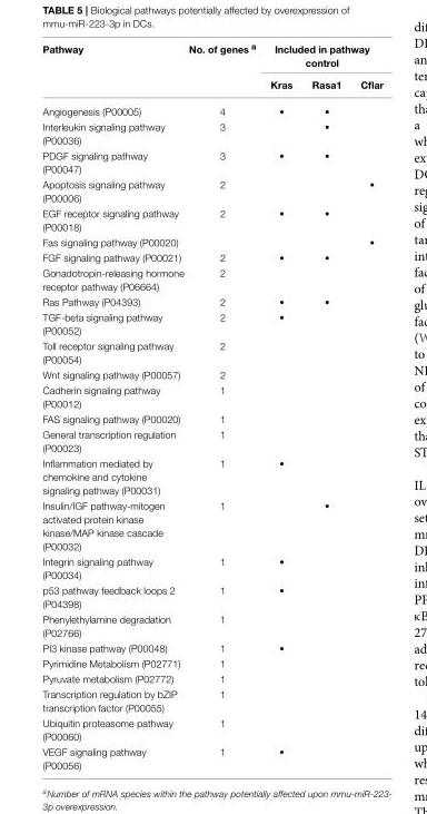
<table><thead><tr><td rowspan="2">Pathway</td><td rowspan="2">No. of genes <sup>a</sup></td><td colspan="3">Included in pathway control</td></tr><tr><td>Kras</td><td>Rasa1</td><td>Cflar</td></tr></thead><tbody><tr><td>Angiogenesis (P00005)</td><td>4</td><td>•</td><td>•</td><td></td></tr><tr><td>Interleukin signaling pathway (P00036)</td><td>3</td><td></td><td>•</td><td></td></tr><tr><td>PDGF signaling pathway (P00047)</td><td>3</td><td>•</td><td>•</td><td></td></tr><tr><td>Apoptosis signaling pathway (P00006)</td><td>2</td><td></td><td></td><td>•</td></tr><tr><td>EGF receptor signaling pathway (P00018)</td><td>2</td><td>•</td><td>•</td><td></td></tr><tr><td>Fas signaling pathway (P00020)</td><td></td><td></td><td></td><td>•</td></tr><tr><td>FGF signaling pathway (P00021)</td><td>2</td><td>•</td><td>•</td><td></td></tr><tr><td>Gonadotropin-releasing hormone receptor pathway (P06664)</td><td>2</td><td></td><td></td><td></td></tr><tr><td>Ras Pathway (P04393)</td><td>2</td><td>•</td><td>•</td><td></td></tr><tr><td>TGF-beta signaling pathway (P00052)</td><td>2</td><td>•</td><td></td><td></td></tr><tr><td>Toll receptor signaling pathway (P00054)</td><td>2</td><td></td><td></td><td></td></tr><tr><td>Wnt signaling pathway (P00057)</td><td>2</td><td></td><td></td><td></td></tr><tr><td>Cadherin signaling pathway (P00012)</td><td>1</td><td></td><td></td><td></td></tr><tr><td>FAS signaling pathway (P00020)</td><td>1</td><td></td><td></td><td></td></tr><tr><td>General transcription regulation (P00023)</td><td>1</td><td></td><td></td><td></td></tr><tr><td>Inflammation mediated by chemokine and cytokine signaling pathway (P00031)</td><td>1</td><td>•</td><td></td><td></td></tr><tr><td>Insulin/IGF pathway-mitogen activated protein kinase kinase/MAP kinase cascade (P00032)</td><td>1</td><td></td><td>•</td><td></td></tr><tr><td>Integrin signaling pathway (P00034)</td><td>1</td><td>•</td><td></td><td></td></tr><tr><td>p53 pathway feedback loops 2 (P04398)</td><td>1</td><td>•</td><td></td><td></td></tr><tr><td>Phenylethylamine degradation (P02766)</td><td>1</td><td></td><td></td><td></td></tr><tr><td>PI3 kinase pathway (P00048)</td><td>1</td><td>•</td><td></td><td></td></tr><tr><td>Pyrimidine Metabolism (P02771)</td><td>1</td><td></td><td></td><td></td></tr><tr><td>Pyruvate metabolism (P02772)</td><td>1</td><td></td><td></td><td></td></tr><tr><td>Transcription regulation by bZIP transcription factor (P00055)</td><td>1</td><td></td><td></td><td></td></tr><tr><td>Ubiquitin proteasome pathway (P00060)</td><td>1</td><td></td><td></td><td></td></tr><tr><td>VEGF signaling pathway (P00056)</td><td>1</td><td>•</td><td></td><td></td></tr></tbody></table>